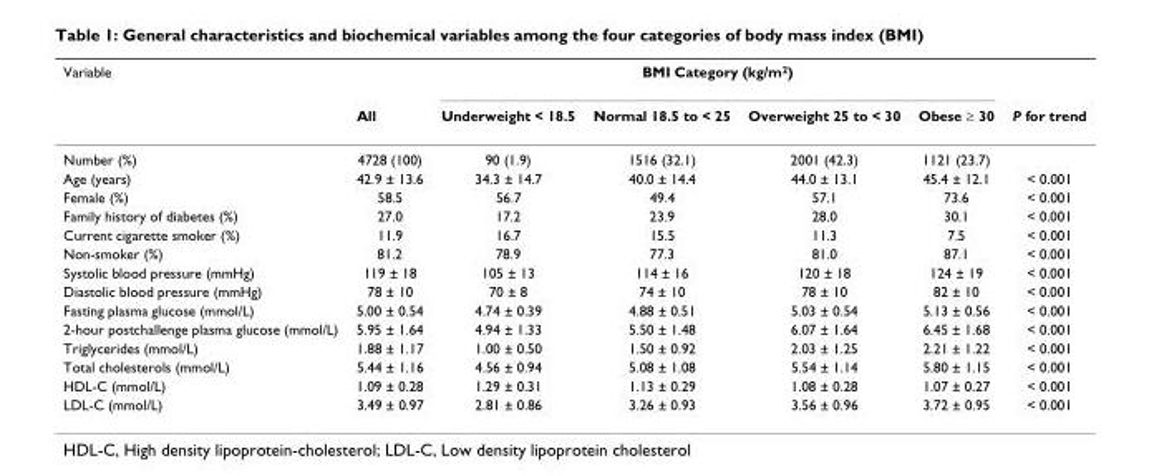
<table><thead><tr><td rowspan="2">Variable</td><td rowspan="2">All</td><td colspan="4">BMI Category (kg/m<sup>2</sup>)</td><td rowspan="2">P for trend</td></tr><tr><td>Underweight &lt; 18.5</td><td>Normal 18.5 to &lt; 25</td><td>Overweight 25 to &lt; 30</td><td>Obese ≥ 30</td></tr></thead><tbody><tr><td>Number (%)</td><td>4728 (100)</td><td>90 (1.9)</td><td>1516 (32.1)</td><td>2001 (42.3)</td><td>1121 (23.7)</td><td></td></tr><tr><td>Age (years)</td><td>42.9 ± 13.6</td><td>34.3 ± 14.7</td><td>40.0 ± 14.4</td><td>44.0 ± 13.1</td><td>45.4 ± 12.1</td><td>&lt; 0.001</td></tr><tr><td>Female (%)</td><td>58.5</td><td>56.7</td><td>49.4</td><td>57.1</td><td>73.6</td><td>&lt; 0.001</td></tr><tr><td>Family history of diabetes (%)</td><td>27.0</td><td>17.2</td><td>23.9</td><td>28.0</td><td>30.1</td><td>&lt; 0.001</td></tr><tr><td>Current cigarette smoker (%)</td><td>11.9</td><td>16.7</td><td>15.5</td><td>11.3</td><td>7.5</td><td>&lt; 0.001</td></tr><tr><td>Non-smoker (%)</td><td>81.2</td><td>78.9</td><td>77.3</td><td>81.0</td><td>87.1</td><td>&lt; 0.001</td></tr><tr><td>Systolic blood pressure (mmHg)</td><td>119 ± 18</td><td>105 ± 13</td><td>114 ± 16</td><td>120 ± 18</td><td>124 ± 19</td><td>&lt; 0.001</td></tr><tr><td>Diastolic blood pressure (mmHg)</td><td>78 ± 10</td><td>70 ± 8</td><td>74 ± 10</td><td>78 ± 10</td><td>82 ± 10</td><td>&lt; 0.001</td></tr><tr><td>Fasting plasma glucose (mmol/L)</td><td>5.00 ± 0.54</td><td>4.74 ± 0.39</td><td>4.88 ± 0.51</td><td>5.03 ± 0.54</td><td>5.13 ± 0.56</td><td>&lt; 0.001</td></tr><tr><td>2-hour postchallenge plasma glucose (mmol/L)</td><td>5.95 ± 1.64</td><td>4.94 ± 1.33</td><td>5.50 ± 1.48</td><td>6.07 ± 1.64</td><td>6.45 ± 1.68</td><td>&lt; 0.001</td></tr><tr><td>Triglycerides (mmol/L)</td><td>1.88 ± 1.17</td><td>1.00 ± 0.50</td><td>1.50 ± 0.92</td><td>2.03 ± 1.25</td><td>2.21 ± 1.22</td><td>&lt; 0.001</td></tr><tr><td>Total cholesterols (mmol/L)</td><td>5.44 ± 1.16</td><td>4.56 ± 0.94</td><td>5.08 ± 1.08</td><td>5.54 ± 1.14</td><td>5.80 ± 1.15</td><td>&lt; 0.001</td></tr><tr><td>HDL-C (mmol/L)</td><td>1.09 ± 0.28</td><td>1.29 ± 0.31</td><td>1.13 ± 0.29</td><td>1.08 ± 0.28</td><td>1.07 ± 0.27</td><td>&lt; 0.001</td></tr><tr><td>LDL-C (mmol/L)</td><td>3.49 ± 0.97</td><td>2.81 ± 0.86</td><td>3.26 ± 0.93</td><td>3.56 ± 0.96</td><td>3.72 ± 0.95</td><td>&lt; 0.001</td></tr></tbody></table>